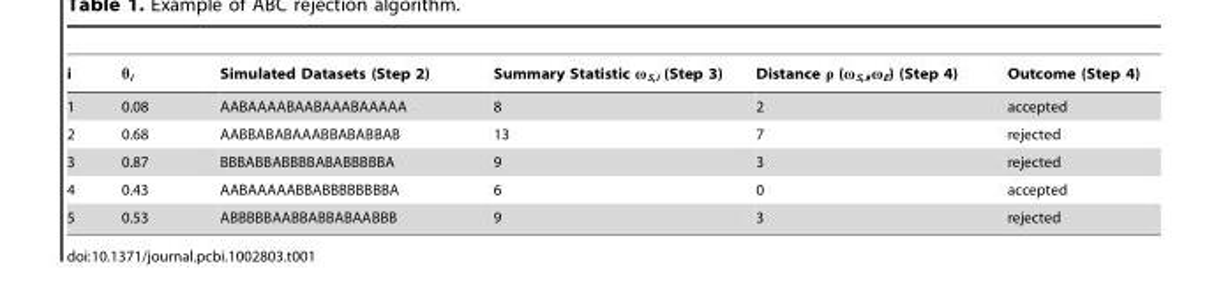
<table><thead><tr><td>i</td><td>θ<sub>i</sub></td><td>Simulated Datasets (Step 2)</td><td>Summary Statistic ω<sub>S,i</sub> (Step 3)</td><td>Distance ρ (ω<sub>S,i</sub>,ω<sub>E</sub>) (Step 4)</td><td>Outcome (Step 4)</td></tr></thead><tbody><tr><td>1</td><td>0.08</td><td>AABAAAABAABAAABAAAAA</td><td>8</td><td>2</td><td>accepted</td></tr><tr><td>2</td><td>0.68</td><td>AABBABABAAABBABABBAB</td><td>13</td><td>7</td><td>rejected</td></tr><tr><td>3</td><td>0.87</td><td>BBBABBABBBBABABBBBBA</td><td>9</td><td>3</td><td>rejected</td></tr><tr><td>4</td><td>0.43</td><td>AABAAAAABBABBBBBBBBA</td><td>6</td><td>0</td><td>accepted</td></tr><tr><td>5</td><td>0.53</td><td>ABBBBBAABBABBABAABBB</td><td>9</td><td>3</td><td>rejected</td></tr></tbody></table>